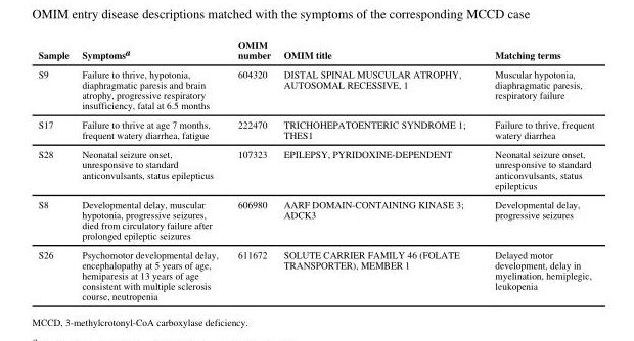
<table><thead><tr><td>Sample</td><td>Symptoms<sup>a</sup></td><td>OMIM number</td><td>OMIM title</td><td>Matching terms</td></tr></thead><tbody><tr><td>S9</td><td>Failure to thrive, hypotonia, diaphragmatic paresis and brain atrophy, progressive respiratory insufficiency, fatal at 6.5 months</td><td>604320</td><td>DISTAL SPINAL MUSCULAR ATROPHY, AUTOSOMAL RECESSIVE, 1</td><td>Muscular hypotonia, diaphragmatic paresis, respiratory failure</td></tr><tr><td>S17</td><td>Failure to thrive at age 7 months, frequent watery diarrhea, fatigue</td><td>222470</td><td>TRICHOHEPATOENTERIC SYNDROME 1; THES1</td><td>Failure to thrive, frequent watery diarrhea</td></tr><tr><td>S28</td><td>Neonatal seizure onset, unresponsive to standard anticonvulsants, status epilepticus</td><td>107323</td><td>EPILEPSY, PYRIDOXINE-DEPENDENT</td><td>Neonatal seizure onset, unresponsive to standard anticonvulsants, status epilepticus</td></tr><tr><td>S8</td><td>Developmental delay, muscular hypotonia, progressive seizures, died from circulatory failure after prolonged epileptic seizures</td><td>606980</td><td>AARF DOMAIN-CONTAINING KINASE 3; ADCK3</td><td>Developmental delay, progressive seizures</td></tr><tr><td>S26</td><td>Psychomotor developmental delay, encephalopathy at 5 years of age, hemiparesis at 13 years of age consistent with multiple sclerosis course, neutropenia</td><td>611672</td><td>SOLUTE CARRIER FAMILY 46 (FOLATE TRANSPORTER), MEMBER 1</td><td>Delayed motor development, delay in myelination, hemiplegic, leukopenia</td></tr></tbody></table>